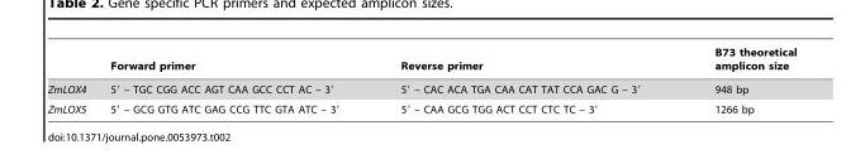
<table><thead><tr><td></td><td>Forward primer</td><td>Reverse primer</td><td>B73 theoretical amplicon size</td></tr></thead><tbody><tr><td>ZmLOX4</td><td>5′ – TGC CGG ACC AGT CAA GCC CCT AC – 3′</td><td>5′ – CAC ACA TGA CAA CAT TAT CCA GAC G – 3′</td><td>948 bp</td></tr><tr><td>ZmLOX5</td><td>5′ – GCG GTG ATC GAG CCG TTC GTA ATC – 3′</td><td>5′ – CAA GCG TGG ACT CCT CTC TC – 3′</td><td>1266 bp</td></tr></tbody></table>